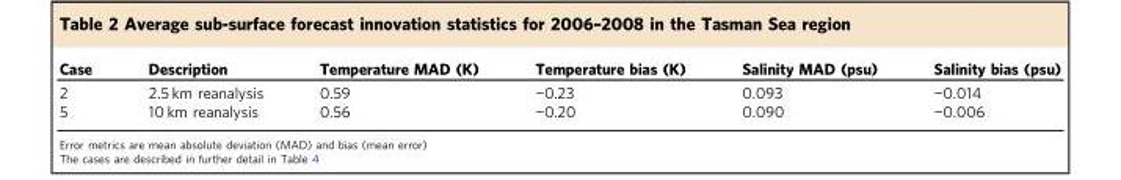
<table><thead><tr><td>Case</td><td>Description</td><td>Temperature MAD (K)</td><td>Temperature bias (K)</td><td>Salinity MAD (psu)</td><td>Salinity bias (psu)</td></tr></thead><tbody><tr><td>2</td><td>2.5 km reanalysis</td><td>0.59</td><td>−0.23</td><td>0.093</td><td>−0.014</td></tr><tr><td>5</td><td>10 km reanalysis</td><td>0.56</td><td>−0.20</td><td>0.090</td><td>−0.006</td></tr></tbody></table>